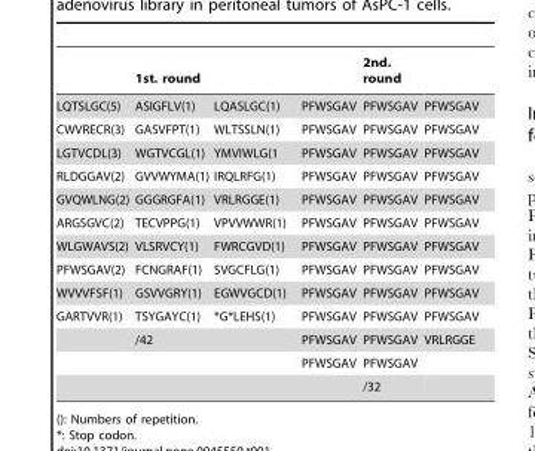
<table><thead><tr><td></td><td>1st. round</td><td></td><td></td><td>2nd. round</td><td></td></tr></thead><tbody><tr><td>LQTSLGC(5)</td><td>ASIGFLV(1)</td><td>LQASLGC(1)</td><td>PFWSGAV</td><td>PFWSGAV</td><td>PFWSGAV</td></tr><tr><td>CWVRECR(3)</td><td>GASVFPT(1)</td><td>WLTSSLN(1)</td><td>PFWSGAV</td><td>PFWSGAV</td><td>PFWSGAV</td></tr><tr><td>LGTVCDL(3)</td><td>WGTVCGL(1)</td><td>YMVIWLG(1</td><td>PFWSGAV</td><td>PFWSGAV</td><td>PFWSGAV</td></tr><tr><td>RLDGGAV(2)</td><td>GVVWYMA(1)</td><td>IRQLRFG(1)</td><td>PFWSGAV</td><td>PFWSGAV</td><td>PFWSGAV</td></tr><tr><td>GVQWLNG(2)</td><td>GGGRGFA(1)</td><td>VRLRGGE(1)</td><td>PFWSGAV</td><td>PFWSGAV</td><td>PFWSGAV</td></tr><tr><td>ARGSGVC(2)</td><td>TECVPPG(1)</td><td>VPVVWWR(1)</td><td>PFWSGAV</td><td>PFWSGAV</td><td>PFWSGAV</td></tr><tr><td>WLGWAVS(2)</td><td>VLSRVCY(1)</td><td>FWRCGVD(1)</td><td>PFWSGAV</td><td>PFWSGAV</td><td>PFWSGAV</td></tr><tr><td>PFWSGAV(2)</td><td>FCNGRAF(1)</td><td>SVGCFLG(1)</td><td>PFWSGAV</td><td>PFWSGAV</td><td>PFWSGAV</td></tr><tr><td>WVVVFSF(1)</td><td>GSVVGRY(1)</td><td>EGWVGCD(1)</td><td>PFWSGAV</td><td>PFWSGAV</td><td>PFWSGAV</td></tr><tr><td rowspan="4">GARTVVR(1)</td><td>TSYGAYC(1)</td><td>*G*LEHS(1)</td><td>PFWSGAV</td><td>PFWSGAV</td><td>PFWSGAV</td></tr><tr><td>/42</td><td></td><td>PFWSGAV</td><td>PFWSGAV</td><td>VRLRGGE</td></tr><tr><td></td><td></td><td>PFWSGAV</td><td>PFWSGAV</td><td></td></tr><tr><td></td><td></td><td></td><td>/32</td><td></td></tr></tbody></table>